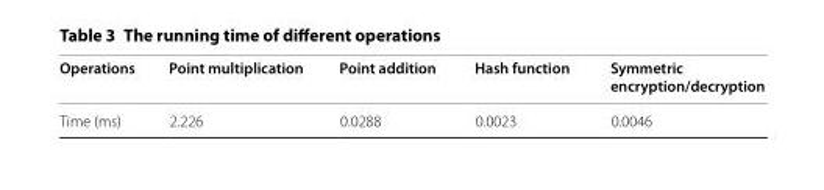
<table><thead><tr><td>Operations</td><td>Point multiplication</td><td>Point addition</td><td>Hash function</td><td>Symmetric encryption/decryption</td></tr></thead><tbody><tr><td>Time (ms)</td><td>2.226</td><td>0.0288</td><td>0.0023</td><td>0.0046</td></tr></tbody></table>